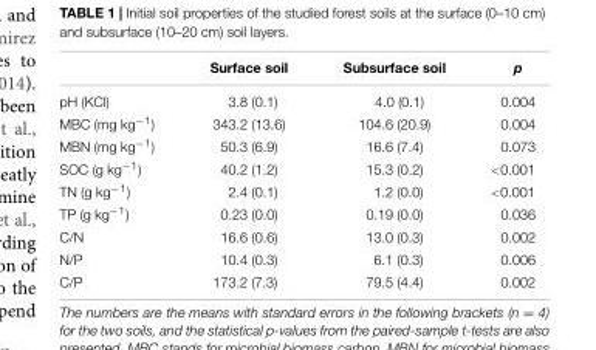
<table><thead><tr><td></td><td>Surface soil</td><td>Subsurface soil</td><td>p</td></tr></thead><tbody><tr><td>pH (KCl)</td><td>3.8 (0.1)</td><td>4.0 (0.1)</td><td>0.004</td></tr><tr><td>MBC (mg kg<sup>−1</sup>)</td><td>343.2 (13.6)</td><td>104.6 (20.9)</td><td>0.004</td></tr><tr><td>MBN (mg kg<sup>−1</sup>)</td><td>50.3 (6.9)</td><td>16.6 (7.4)</td><td>0.073</td></tr><tr><td>SOC (g kg<sup>−1</sup>)</td><td>40.2 (1.2)</td><td>15.3 (0.2)</td><td>&lt;0.001</td></tr><tr><td>TN (g kg<sup>−1</sup>)</td><td>2.4 (0.1)</td><td>1.2 (0.0)</td><td>&lt;0.001</td></tr><tr><td>TP (g kg<sup>−1</sup>)</td><td>0.23 (0.0)</td><td>0.19 (0.0)</td><td>0.036</td></tr><tr><td>C/N</td><td>16.6 (0.6)</td><td>13.0 (0.3)</td><td>0.002</td></tr><tr><td>N/P</td><td>10.4 (0.3)</td><td>6.1 (0.3)</td><td>0.006</td></tr><tr><td>C/P</td><td>173.2 (7.3)</td><td>79.5 (4.4)</td><td>0.002</td></tr></tbody></table>